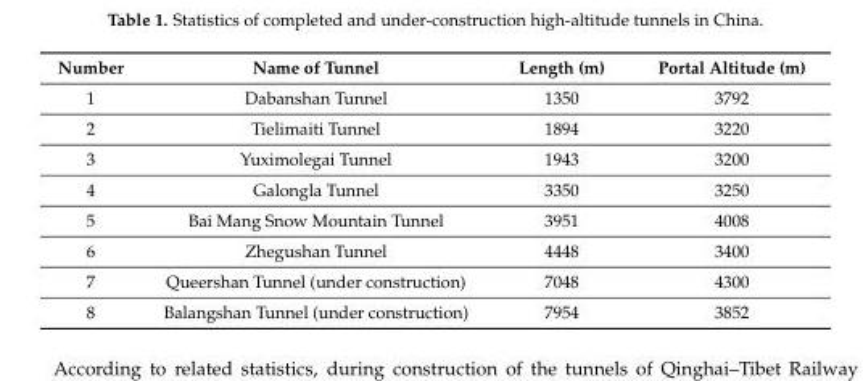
<table><thead><tr><td>Number</td><td>Name of Tunnel</td><td>Length (m)</td><td>Portal Altitude (m)</td></tr></thead><tbody><tr><td>1</td><td>Dabanshan Tunnel</td><td>1350</td><td>3792</td></tr><tr><td>2</td><td>Tielimaiti Tunnel</td><td>1894</td><td>3220</td></tr><tr><td>3</td><td>Yuximolegai Tunnel</td><td>1943</td><td>3200</td></tr><tr><td>4</td><td>Galongla Tunnel</td><td>3350</td><td>3250</td></tr><tr><td>5</td><td>Bai Mang Snow Mountain Tunnel</td><td>3951</td><td>4008</td></tr><tr><td>6</td><td>Zhegushan Tunnel</td><td>4448</td><td>3400</td></tr><tr><td>7</td><td>Queershan Tunnel (under construction)</td><td>7048</td><td>4300</td></tr><tr><td>8</td><td>Balangshan Tunnel (under construction)</td><td>7954</td><td>3852</td></tr></tbody></table>